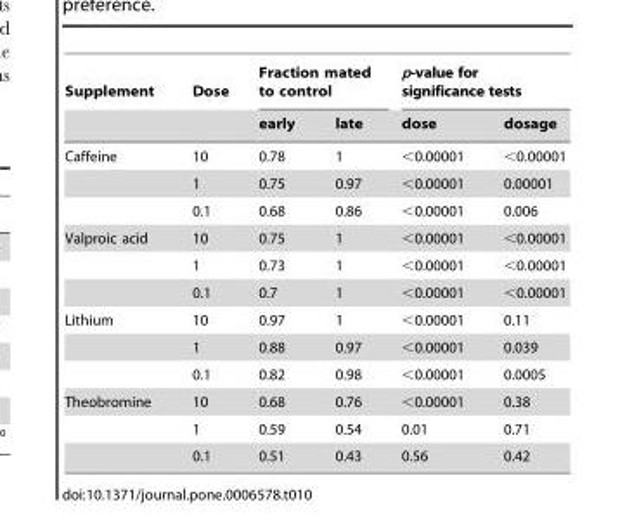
<table><thead><tr><td rowspan="2">Supplement</td><td rowspan="2">Dose</td><td colspan="2">Fraction mated to control</td><td colspan="2">p-value for significance tests</td></tr><tr><td>early</td><td>late</td><td>dose</td><td>dosage</td></tr></thead><tbody><tr><td rowspan="3">Caffeine</td><td>10</td><td>0.78</td><td>1</td><td>&lt;0.00001</td><td>&lt;0.00001</td></tr><tr><td>1</td><td>0.75</td><td>0.97</td><td>&lt;0.00001</td><td>0.00001</td></tr><tr><td>0.1</td><td>0.68</td><td>0.86</td><td>&lt;0.00001</td><td>0.006</td></tr><tr><td rowspan="3">Valproic acid</td><td>10</td><td>0.75</td><td>1</td><td>&lt;0.00001</td><td>&lt;0.00001</td></tr><tr><td>1</td><td>0.73</td><td>1</td><td>&lt;0.00001</td><td>&lt;0.00001</td></tr><tr><td>0.1</td><td>0.7</td><td>1</td><td>&lt;0.00001</td><td>&lt;0.00001</td></tr><tr><td rowspan="3">Lithium</td><td>10</td><td>0.97</td><td>1</td><td>&lt;0.00001</td><td>0.11</td></tr><tr><td>1</td><td>0.88</td><td>0.97</td><td>&lt;0.00001</td><td>0.039</td></tr><tr><td>0.1</td><td>0.82</td><td>0.98</td><td>&lt;0.00001</td><td>0.0005</td></tr><tr><td rowspan="3">Theobromine</td><td>10</td><td>0.68</td><td>0.76</td><td>&lt;0.00001</td><td>0.38</td></tr><tr><td>1</td><td>0.59</td><td>0.54</td><td>0.01</td><td>0.71</td></tr><tr><td>0.1</td><td>0.51</td><td>0.43</td><td>0.56</td><td>0.42</td></tr></tbody></table>